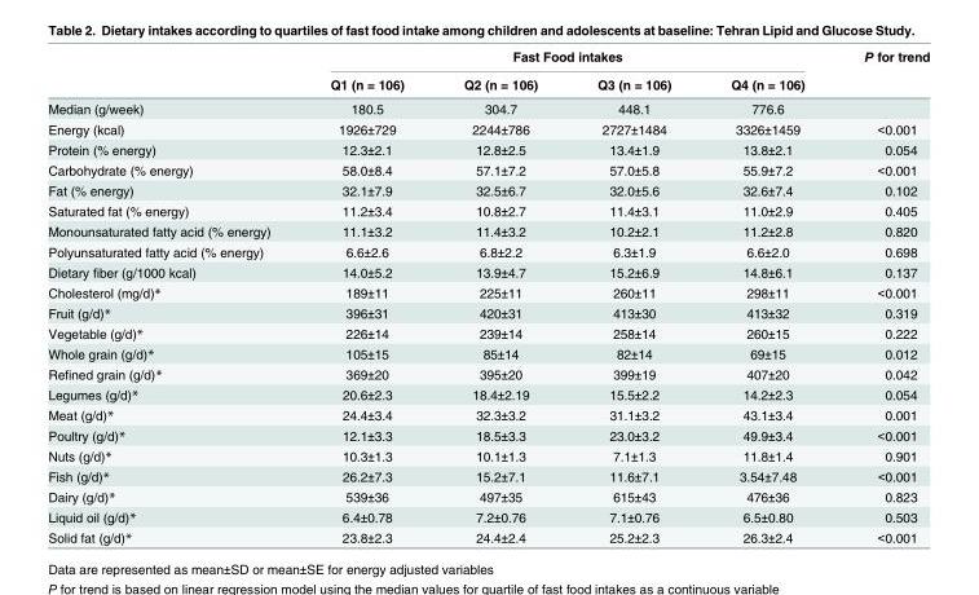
<table><thead><tr><td rowspan="2"></td><td colspan="4">Fast Food intakes</td><td rowspan="2">P for trend</td></tr><tr><td>Q1 (n = 106)</td><td>Q2 (n = 106)</td><td>Q3 (n = 106)</td><td>Q4 (n = 106)</td></tr></thead><tbody><tr><td>Median (g/week)</td><td>180.5</td><td>304.7</td><td>448.1</td><td>776.6</td><td></td></tr><tr><td>Energy (kcal)</td><td>1926±729</td><td>2244±786</td><td>2727±1484</td><td>3326±1459</td><td>&lt;0.001</td></tr><tr><td>Protein (% energy)</td><td>12.3±2.1</td><td>12.8±2.5</td><td>13.4±1.9</td><td>13.8±2.1</td><td>0.054</td></tr><tr><td>Carbohydrate (% energy)</td><td>58.0±8.4</td><td>57.1±7.2</td><td>57.0±5.8</td><td>55.9±7.2</td><td>&lt;0.001</td></tr><tr><td>Fat (% energy)</td><td>32.1±7.9</td><td>32.5±6.7</td><td>32.0±5.6</td><td>32.6±7.4</td><td>0.102</td></tr><tr><td>Saturated fat (% energy)</td><td>11.2±3.4</td><td>10.8±2.7</td><td>11.4±3.1</td><td>11.0±2.9</td><td>0.405</td></tr><tr><td>Monounsaturated fatty acid (% energy)</td><td>11.1±3.2</td><td>11.4±3.2</td><td>10.2±2.1</td><td>11.2±2.8</td><td>0.820</td></tr><tr><td>Polyunsaturated fatty acid (% energy)</td><td>6.6±2.6</td><td>6.8±2.2</td><td>6.3±1.9</td><td>6.6±2.0</td><td>0.698</td></tr><tr><td>Dietary fiber (g/1000 kcal)</td><td>14.0±5.2</td><td>13.9±4.7</td><td>15.2±6.9</td><td>14.8±6.1</td><td>0.137</td></tr><tr><td>Cholesterol (mg/d)*</td><td>189±11</td><td>225±11</td><td>260±11</td><td>298±11</td><td>&lt;0.001</td></tr><tr><td>Fruit (g/d)*</td><td>396±31</td><td>420±31</td><td>413±30</td><td>413±32</td><td>0.319</td></tr><tr><td>Vegetable (g/d)*</td><td>226±14</td><td>239±14</td><td>258±14</td><td>260±15</td><td>0.222</td></tr><tr><td>Whole grain (g/d)*</td><td>105±15</td><td>85±14</td><td>82±14</td><td>69±15</td><td>0.012</td></tr><tr><td>Refined grain (g/d)*</td><td>369±20</td><td>395±20</td><td>399±19</td><td>407±20</td><td>0.042</td></tr><tr><td>Legumes (g/d)*</td><td>20.6±2.3</td><td>18.4±2.19</td><td>15.5±2.2</td><td>14.2±2.3</td><td>0.054</td></tr><tr><td>Meat (g/d)*</td><td>24.4±3.4</td><td>32.3±3.2</td><td>31.1±3.2</td><td>43.1±3.4</td><td>0.001</td></tr><tr><td>Poultry (g/d)*</td><td>12.1±3.3</td><td>18.5±3.3</td><td>23.0±3.2</td><td>49.9±3.4</td><td>&lt;0.001</td></tr><tr><td>Nuts (g/d)*</td><td>10.3±1.3</td><td>10.1±1.3</td><td>7.1±1.3</td><td>11.8±1.4</td><td>0.901</td></tr><tr><td>Fish (g/d)*</td><td>26.2±7.3</td><td>15.2±7.1</td><td>11.6±7.1</td><td>3.54±7.48</td><td>&lt;0.001</td></tr><tr><td>Dairy (g/d)*</td><td>539±36</td><td>497±35</td><td>615±43</td><td>476±36</td><td>0.823</td></tr><tr><td>Liquid oil (g/d)*</td><td>6.4±0.78</td><td>7.2±0.76</td><td>7.1±0.76</td><td>6.5±0.80</td><td>0.503</td></tr><tr><td>Solid fat (g/d)*</td><td>23.8±2.3</td><td>24.4±2.4</td><td>25.2±2.3</td><td>26.3±2.4</td><td>&lt;0.001</td></tr></tbody></table>